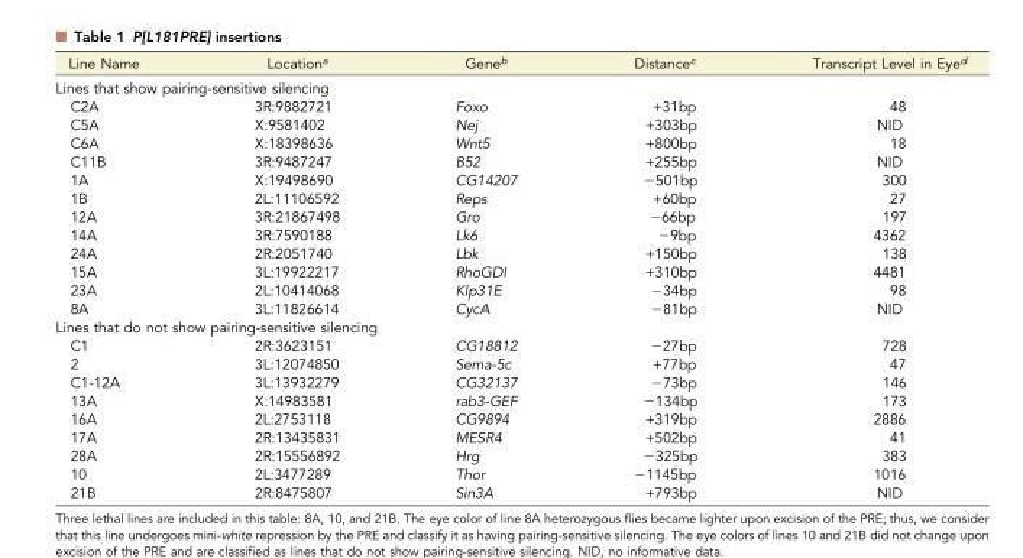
<table><thead><tr><td>Line Name</td><td>Location<sup>a</sup></td><td>Gene<sup>b</sup></td><td>Distance<sup>c</sup></td><td>Transcript Level in Eye<sup>d</sup></td></tr></thead><tbody><tr><td colspan="5">Lines that show pairing-sensitive silencing</td></tr><tr><td>C2A</td><td>3R:9882721</td><td>Foxo</td><td>+31bp</td><td>48</td></tr><tr><td>C5A</td><td>X:9581402</td><td>Nej</td><td>+303bp</td><td>NID</td></tr><tr><td>C6A</td><td>X:18398636</td><td>Wnt5</td><td>+800bp</td><td>18</td></tr><tr><td>C11B</td><td>3R:9487247</td><td>B52</td><td>+255bp</td><td>NID</td></tr><tr><td>1A</td><td>X:19498690</td><td>CG14207</td><td>−501bp</td><td>300</td></tr><tr><td>1B</td><td>2L:11106592</td><td>Reps</td><td>+60bp</td><td>27</td></tr><tr><td>12A</td><td>3R:21867498</td><td>Gro</td><td>−66bp</td><td>197</td></tr><tr><td>14A</td><td>3R:7590188</td><td>Lk6</td><td>−9bp</td><td>4362</td></tr><tr><td>24A</td><td>2R:2051740</td><td>Lbk</td><td>+150bp</td><td>138</td></tr><tr><td>15A</td><td>3L:19922217</td><td>RhoGDI</td><td>+310bp</td><td>4481</td></tr><tr><td>23A</td><td>2L:10414068</td><td>Klp31E</td><td>−34bp</td><td>98</td></tr><tr><td>8A</td><td>3L:11826614</td><td>CycA</td><td>−81bp</td><td>NID</td></tr><tr><td colspan="5">Lines that do not show pairing-sensitive silencing</td></tr><tr><td>C1</td><td>2R:3623151</td><td>CG18812</td><td>−27bp</td><td>728</td></tr><tr><td>2</td><td>3L:12074850</td><td>Sema-5c</td><td>+77bp</td><td>47</td></tr><tr><td>C1-12A</td><td>3L:13932279</td><td>CG32137</td><td>−73bp</td><td>146</td></tr><tr><td>13A</td><td>X:14983581</td><td>rab3-GEF</td><td>−134bp</td><td>173</td></tr><tr><td>16A</td><td>2L:2753118</td><td>CG9894</td><td>+319bp</td><td>2886</td></tr><tr><td>17A</td><td>2R:13435831</td><td>MESR4</td><td>+502bp</td><td>41</td></tr><tr><td>28A</td><td>2R:15556892</td><td>Hrg</td><td>−325bp</td><td>383</td></tr><tr><td>10</td><td>2L:3477289</td><td>Thor</td><td>−1145bp</td><td>1016</td></tr><tr><td>21B</td><td>2R:8475807</td><td>Sin3A</td><td>+793bp</td><td>NID</td></tr></tbody></table>